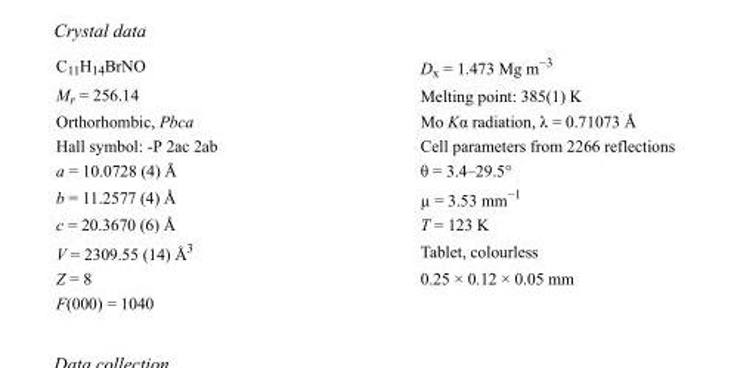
<table><tbody><tr><td>C<sub>11</sub>H<sub>14</sub>BrNO</td><td>D<sub>x</sub> = 1.473 Mg m<sup>−3</sup></td></tr><tr><td>M<sub>r</sub> = 256.14</td><td>Melting point: 385(1) K</td></tr><tr><td>Orthorhombic, Pbca</td><td>Mo Kα radiation, λ = 0.71073 Å</td></tr><tr><td>Hall symbol: -P 2ac 2ab</td><td>Cell parameters from 2266 reflections</td></tr><tr><td>a = 10.0728 (4) Å</td><td>θ = 3.4–29.5°</td></tr><tr><td>b = 11.2577 (4) Å</td><td>µ = 3.53 mm<sup>−1</sup></td></tr><tr><td>c = 20.3670 (6) Å</td><td>T = 123 K</td></tr><tr><td>V = 2309.55 (14) Å<sup>3</sup></td><td>Tablet, colourless</td></tr><tr><td>Z = 8</td><td>0.25 × 0.12 × 0.05 mm</td></tr><tr><td>F(000) = 1040</td><td></td></tr></tbody></table>